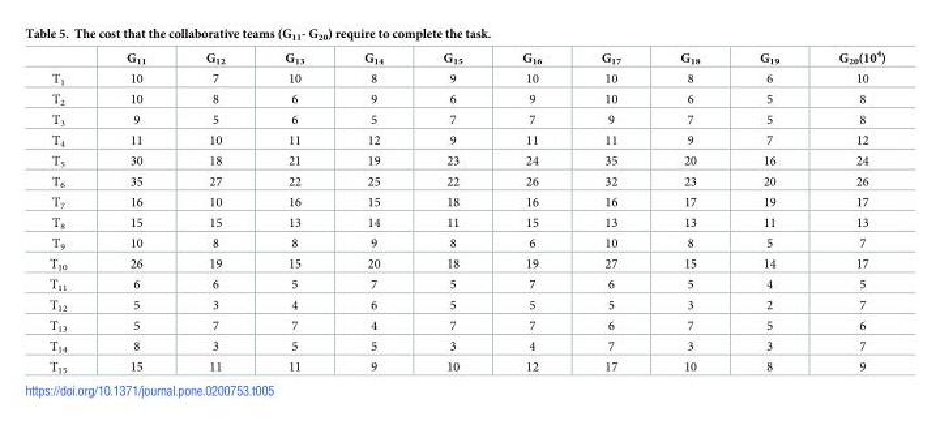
<table><thead><tr><td></td><td>G<sub>11</sub></td><td>G<sub>12</sub></td><td>G<sub>13</sub></td><td>G<sub>14</sub></td><td>G<sub>15</sub></td><td>G<sub>16</sub></td><td>G<sub>17</sub></td><td>G<sub>18</sub></td><td>G<sub>19</sub></td><td>G<sub>20</sub>(10<sup>4</sup>)</td></tr></thead><tbody><tr><td>T<sub>1</sub></td><td>10</td><td>7</td><td>10</td><td>8</td><td>9</td><td>10</td><td>10</td><td>8</td><td>6</td><td>10</td></tr><tr><td>T<sub>2</sub></td><td>10</td><td>8</td><td>6</td><td>9</td><td>6</td><td>9</td><td>10</td><td>6</td><td>5</td><td>8</td></tr><tr><td>T<sub>3</sub></td><td>9</td><td>5</td><td>6</td><td>5</td><td>7</td><td>7</td><td>9</td><td>7</td><td>5</td><td>8</td></tr><tr><td>T<sub>4</sub></td><td>11</td><td>10</td><td>11</td><td>12</td><td>9</td><td>11</td><td>11</td><td>9</td><td>7</td><td>12</td></tr><tr><td>T<sub>5</sub></td><td>30</td><td>18</td><td>21</td><td>19</td><td>23</td><td>24</td><td>35</td><td>20</td><td>16</td><td>24</td></tr><tr><td>T<sub>6</sub></td><td>35</td><td>27</td><td>22</td><td>25</td><td>22</td><td>26</td><td>32</td><td>23</td><td>20</td><td>26</td></tr><tr><td>T<sub>7</sub></td><td>16</td><td>10</td><td>16</td><td>15</td><td>18</td><td>16</td><td>16</td><td>17</td><td>19</td><td>17</td></tr><tr><td>T<sub>8</sub></td><td>15</td><td>15</td><td>13</td><td>14</td><td>11</td><td>15</td><td>13</td><td>13</td><td>11</td><td>13</td></tr><tr><td>T<sub>9</sub></td><td>10</td><td>8</td><td>8</td><td>9</td><td>8</td><td>6</td><td>10</td><td>8</td><td>5</td><td>7</td></tr><tr><td>T<sub>10</sub></td><td>26</td><td>19</td><td>15</td><td>20</td><td>18</td><td>19</td><td>27</td><td>15</td><td>14</td><td>17</td></tr><tr><td>T<sub>11</sub></td><td>6</td><td>6</td><td>5</td><td>7</td><td>5</td><td>7</td><td>6</td><td>5</td><td>4</td><td>5</td></tr><tr><td>T<sub>12</sub></td><td>5</td><td>3</td><td>4</td><td>6</td><td>5</td><td>5</td><td>5</td><td>3</td><td>2</td><td>7</td></tr><tr><td>T<sub>13</sub></td><td>5</td><td>7</td><td>7</td><td>4</td><td>7</td><td>7</td><td>6</td><td>7</td><td>5</td><td>6</td></tr><tr><td>T<sub>14</sub></td><td>8</td><td>3</td><td>5</td><td>5</td><td>3</td><td>4</td><td>7</td><td>3</td><td>3</td><td>7</td></tr><tr><td>T<sub>15</sub></td><td>15</td><td>11</td><td>11</td><td>9</td><td>10</td><td>12</td><td>17</td><td>10</td><td>8</td><td>9</td></tr></tbody></table>